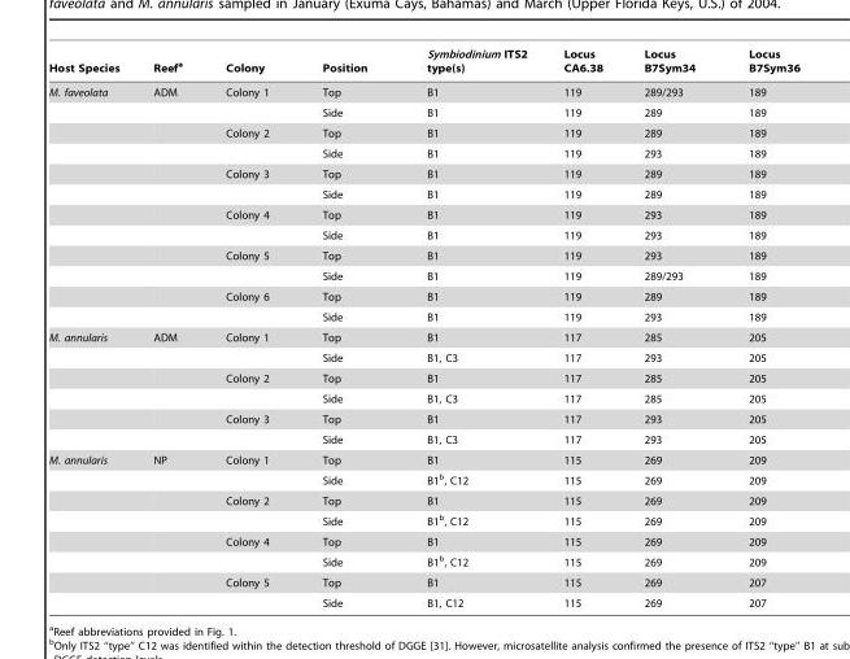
<table><thead><tr><td>Host Species</td><td>Reef<sup>a</sup></td><td>Colony</td><td>Position</td><td>Symbiodinium ITS2 type(s)</td><td>Locus CA6.38</td><td>Locus B7Sym34</td><td>Locus B7Sym36</td></tr></thead><tbody><tr><td rowspan="12">M. faveolata</td><td>ADM</td><td>Colony 1</td><td>Top</td><td>B1</td><td>119</td><td>289/293</td><td>189</td></tr><tr><td></td><td></td><td>Side</td><td>B1</td><td>119</td><td>289</td><td>189</td></tr><tr><td></td><td>Colony 2</td><td>Top</td><td>B1</td><td>119</td><td>289</td><td>189</td></tr><tr><td></td><td></td><td>Side</td><td>B1</td><td>119</td><td>293</td><td>189</td></tr><tr><td></td><td>Colony 3</td><td>Top</td><td>B1</td><td>119</td><td>289</td><td>189</td></tr><tr><td></td><td></td><td>Side</td><td>B1</td><td>119</td><td>289</td><td>189</td></tr><tr><td></td><td>Colony 4</td><td>Top</td><td>B1</td><td>119</td><td>293</td><td>189</td></tr><tr><td></td><td></td><td>Side</td><td>B1</td><td>119</td><td>293</td><td>189</td></tr><tr><td></td><td>Colony 5</td><td>Top</td><td>B1</td><td>119</td><td>293</td><td>189</td></tr><tr><td></td><td></td><td>Side</td><td>B1</td><td>119</td><td>289/293</td><td>189</td></tr><tr><td></td><td>Colony 6</td><td>Top</td><td>B1</td><td>119</td><td>289</td><td>189</td></tr><tr><td></td><td></td><td>Side</td><td>B1</td><td>119</td><td>293</td><td>189</td></tr><tr><td rowspan="6">M. annularis</td><td>ADM</td><td>Colony 1</td><td>Top</td><td>B1</td><td>117</td><td>285</td><td>205</td></tr><tr><td></td><td></td><td>Side</td><td>B1, C3</td><td>117</td><td>293</td><td>205</td></tr><tr><td></td><td>Colony 2</td><td>Top</td><td>B1</td><td>117</td><td>285</td><td>205</td></tr><tr><td></td><td></td><td>Side</td><td>B1, C3</td><td>117</td><td>285</td><td>205</td></tr><tr><td></td><td>Colony 3</td><td>Top</td><td>B1</td><td>117</td><td>293</td><td>205</td></tr><tr><td></td><td></td><td>Side</td><td>B1, C3</td><td>117</td><td>293</td><td>205</td></tr><tr><td rowspan="8">M. annularis</td><td>NP</td><td>Colony 1</td><td>Top</td><td>B1</td><td>115</td><td>269</td><td>209</td></tr><tr><td></td><td></td><td>Side</td><td>B1<sup>b</sup>, C12</td><td>115</td><td>269</td><td>209</td></tr><tr><td></td><td>Colony 2</td><td>Top</td><td>B1</td><td>115</td><td>269</td><td>209</td></tr><tr><td></td><td></td><td>Side</td><td>B1<sup>b</sup>, C12</td><td>115</td><td>269</td><td>209</td></tr><tr><td></td><td>Colony 4</td><td>Top</td><td>B1</td><td>115</td><td>269</td><td>209</td></tr><tr><td></td><td></td><td>Side</td><td>B1<sup>b</sup>, C12</td><td>115</td><td>269</td><td>209</td></tr><tr><td></td><td>Colony 5</td><td>Top</td><td>B1</td><td>115</td><td>269</td><td>207</td></tr><tr><td></td><td></td><td>Side</td><td>B1, C12</td><td>115</td><td>269</td><td>207</td></tr></tbody></table>